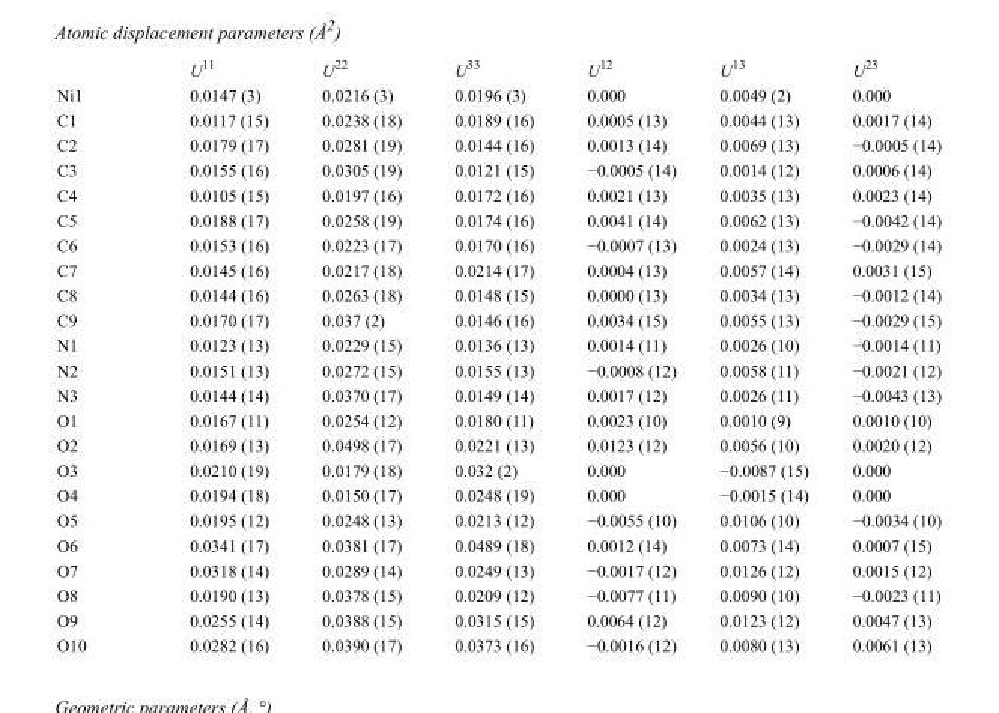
<table><thead><tr><td></td><td>U<sup>11</sup></td><td>U<sup>22</sup></td><td>U<sup>33</sup></td><td>U<sup>12</sup></td><td>U<sup>13</sup></td><td>U<sup>23</sup></td></tr></thead><tbody><tr><td>Ni1</td><td>0.0147 (3)</td><td>0.0216 (3)</td><td>0.0196 (3)</td><td>0.000</td><td>0.0049 (2)</td><td>0.000</td></tr><tr><td>C1</td><td>0.0117 (15)</td><td>0.0238 (18)</td><td>0.0189 (16)</td><td>0.0005 (13)</td><td>0.0044 (13)</td><td>0.0017 (14)</td></tr><tr><td>C2</td><td>0.0179 (17)</td><td>0.0281 (19)</td><td>0.0144 (16)</td><td>0.0013 (14)</td><td>0.0069 (13)</td><td>−0.0005 (14)</td></tr><tr><td>C3</td><td>0.0155 (16)</td><td>0.0305 (19)</td><td>0.0121 (15)</td><td>−0.0005 (14)</td><td>0.0014 (12)</td><td>0.0006 (14)</td></tr><tr><td>C4</td><td>0.0105 (15)</td><td>0.0197 (16)</td><td>0.0172 (16)</td><td>0.0021 (13)</td><td>0.0035 (13)</td><td>0.0023 (14)</td></tr><tr><td>C5</td><td>0.0188 (17)</td><td>0.0258 (19)</td><td>0.0174 (16)</td><td>0.0041 (14)</td><td>0.0062 (13)</td><td>−0.0042 (14)</td></tr><tr><td>C6</td><td>0.0153 (16)</td><td>0.0223 (17)</td><td>0.0170 (16)</td><td>−0.0007 (13)</td><td>0.0024 (13)</td><td>−0.0029 (14)</td></tr><tr><td>C7</td><td>0.0145 (16)</td><td>0.0217 (18)</td><td>0.0214 (17)</td><td>0.0004 (13)</td><td>0.0057 (14)</td><td>0.0031 (15)</td></tr><tr><td>C8</td><td>0.0144 (16)</td><td>0.0263 (18)</td><td>0.0148 (15)</td><td>0.0000 (13)</td><td>0.0034 (13)</td><td>−0.0012 (14)</td></tr><tr><td>C9</td><td>0.0170 (17)</td><td>0.037 (2)</td><td>0.0146 (16)</td><td>0.0034 (15)</td><td>0.0055 (13)</td><td>−0.0029 (15)</td></tr><tr><td>N1</td><td>0.0123 (13)</td><td>0.0229 (15)</td><td>0.0136 (13)</td><td>0.0014 (11)</td><td>0.0026 (10)</td><td>−0.0014 (11)</td></tr><tr><td>N2</td><td>0.0151 (13)</td><td>0.0272 (15)</td><td>0.0155 (13)</td><td>−0.0008 (12)</td><td>0.0058 (11)</td><td>−0.0021 (12)</td></tr><tr><td>N3</td><td>0.0144 (14)</td><td>0.0370 (17)</td><td>0.0149 (14)</td><td>0.0017 (12)</td><td>0.0026 (11)</td><td>−0.0043 (13)</td></tr><tr><td>O1</td><td>0.0167 (11)</td><td>0.0254 (12)</td><td>0.0180 (11)</td><td>0.0023 (10)</td><td>0.0010 (9)</td><td>0.0010 (10)</td></tr><tr><td>O2</td><td>0.0169 (13)</td><td>0.0498 (17)</td><td>0.0221 (13)</td><td>0.0123 (12)</td><td>0.0056 (10)</td><td>0.0020 (12)</td></tr><tr><td>O3</td><td>0.0210 (19)</td><td>0.0179 (18)</td><td>0.032 (2)</td><td>0.000</td><td>−0.0087 (15)</td><td>0.000</td></tr><tr><td>O4</td><td>0.0194 (18)</td><td>0.0150 (17)</td><td>0.0248 (19)</td><td>0.000</td><td>−0.0015 (14)</td><td>0.000</td></tr><tr><td>O5</td><td>0.0195 (12)</td><td>0.0248 (13)</td><td>0.0213 (12)</td><td>−0.0055 (10)</td><td>0.0106 (10)</td><td>−0.0034 (10)</td></tr><tr><td>O6</td><td>0.0341 (17)</td><td>0.0381 (17)</td><td>0.0489 (18)</td><td>0.0012 (14)</td><td>0.0073 (14)</td><td>0.0007 (15)</td></tr><tr><td>O7</td><td>0.0318 (14)</td><td>0.0289 (14)</td><td>0.0249 (13)</td><td>−0.0017 (12)</td><td>0.0126 (12)</td><td>0.0015 (12)</td></tr><tr><td>O8</td><td>0.0190 (13)</td><td>0.0378 (15)</td><td>0.0209 (12)</td><td>−0.0077 (11)</td><td>0.0090 (10)</td><td>−0.0023 (11)</td></tr><tr><td>O9</td><td>0.0255 (14)</td><td>0.0388 (15)</td><td>0.0315 (15)</td><td>0.0064 (12)</td><td>0.0123 (12)</td><td>0.0047 (13)</td></tr><tr><td>O10</td><td>0.0282 (16)</td><td>0.0390 (17)</td><td>0.0373 (16)</td><td>−0.0016 (12)</td><td>0.0080 (13)</td><td>0.0061 (13)</td></tr></tbody></table>